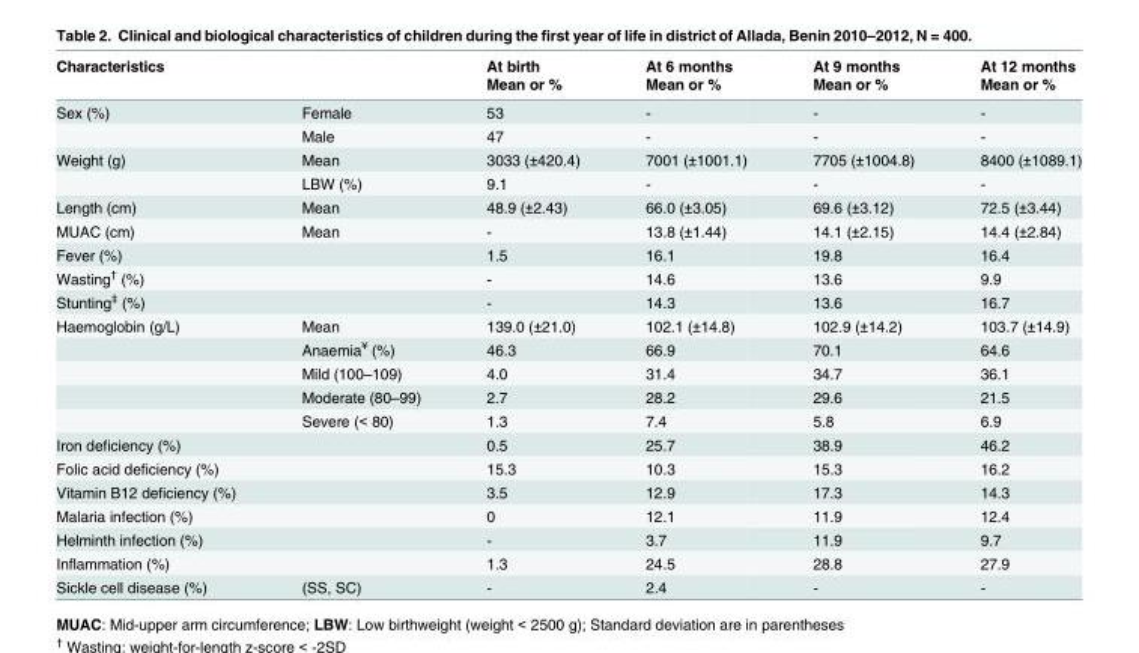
<table><thead><tr><td rowspan="2">Characteristics</td><td rowspan="2"></td><td rowspan="2">At birth Mean or %</td><td rowspan="2">At 6 months Mean or %</td><td rowspan="2">At 9 months Mean or %</td><td rowspan="2">At 12 months Mean or %</td></tr><tr></tr></thead><tbody><tr><td rowspan="2">Sex (%)</td><td>Female</td><td>53</td><td>-</td><td>-</td><td>-</td></tr><tr><td>Male</td><td>47</td><td>-</td><td>-</td><td>-</td></tr><tr><td rowspan="2">Weight (g)</td><td>Mean</td><td>3033 (±420.4)</td><td>7001 (±1001.1)</td><td>7705 (±1004.8)</td><td>8400 (±1089.1)</td></tr><tr><td>LBW (%)</td><td>9.1</td><td>-</td><td>-</td><td>-</td></tr><tr><td>Length (cm)</td><td>Mean</td><td>48.9 (±2.43)</td><td>66.0 (±3.05)</td><td>69.6 (±3.12)</td><td>72.5 (±3.44)</td></tr><tr><td>MUAC (cm)</td><td>Mean</td><td>-</td><td>13.8 (±1.44)</td><td>14.1 (±2.15)</td><td>14.4 (±2.84)</td></tr><tr><td>Fever (%)</td><td></td><td>1.5</td><td>16.1</td><td>19.8</td><td>16.4</td></tr><tr><td>Wasting<sup>†</sup> (%)</td><td></td><td>-</td><td>14.6</td><td>13.6</td><td>9.9</td></tr><tr><td>Stunting<sup>‡</sup> (%)</td><td></td><td>-</td><td>14.3</td><td>13.6</td><td>16.7</td></tr><tr><td rowspan="5">Haemoglobin (g/L)</td><td>Mean</td><td>139.0 (±21.0)</td><td>102.1 (±14.8)</td><td>102.9 (±14.2)</td><td>103.7 (±14.9)</td></tr><tr><td>Anaemia<sup>¥</sup> (%)</td><td>46.3</td><td>66.9</td><td>70.1</td><td>64.6</td></tr><tr><td>Mild (100–109)</td><td>4.0</td><td>31.4</td><td>34.7</td><td>36.1</td></tr><tr><td>Moderate (80–99)</td><td>2.7</td><td>28.2</td><td>29.6</td><td>21.5</td></tr><tr><td>Severe (&lt; 80)</td><td>1.3</td><td>7.4</td><td>5.8</td><td>6.9</td></tr><tr><td>Iron deficiency (%)</td><td></td><td>0.5</td><td>25.7</td><td>38.9</td><td>46.2</td></tr><tr><td>Folic acid deficiency (%)</td><td></td><td>15.3</td><td>10.3</td><td>15.3</td><td>16.2</td></tr><tr><td>Vitamin B12 deficiency (%)</td><td></td><td>3.5</td><td>12.9</td><td>17.3</td><td>14.3</td></tr><tr><td>Malaria infection (%)</td><td></td><td>0</td><td>12.1</td><td>11.9</td><td>12.4</td></tr><tr><td>Helminth infection (%)</td><td></td><td>-</td><td>3.7</td><td>11.9</td><td>9.7</td></tr><tr><td>Inflammation (%)</td><td></td><td>1.3</td><td>24.5</td><td>28.8</td><td>27.9</td></tr><tr><td>Sickle cell disease (%)</td><td>(SS, SC)</td><td>-</td><td>2.4</td><td>-</td><td>-</td></tr></tbody></table>